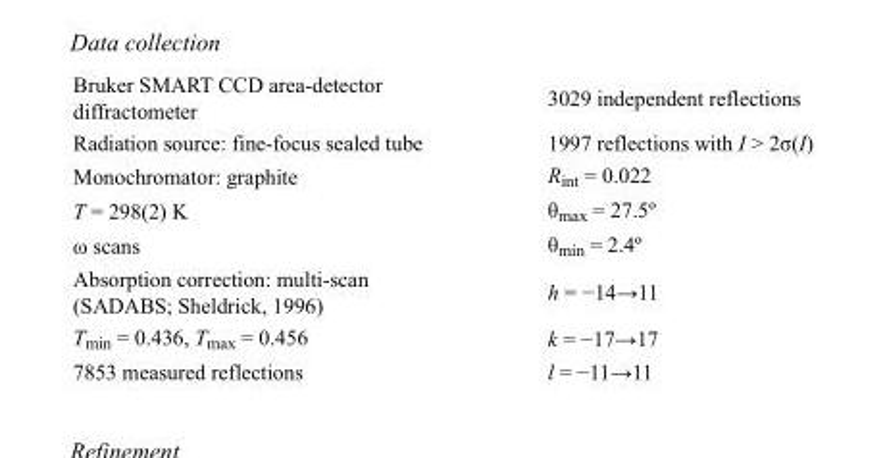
<table><tbody><tr><td>Bruker SMART CCD area-detector diffractometer</td><td>3029 independent reflections</td></tr><tr><td>Radiation source: fine-focus sealed tube</td><td>1997 reflections with I &gt; 2σ(I)</td></tr><tr><td>Monochromator: graphite</td><td>R<sub>int</sub> = 0.022</td></tr><tr><td>T = 298(2) K</td><td>θ<sub>max</sub> = 27.5º</td></tr><tr><td>ω scans</td><td>θ<sub>min</sub> = 2.4º</td></tr><tr><td>Absorption correction: multi-scan (SADABS; Sheldrick, 1996)</td><td>h = −14→11</td></tr><tr><td>T<sub>min</sub> = 0.436, T<sub>max</sub> = 0.456</td><td>k = −17→17</td></tr><tr><td>7853 measured reflections</td><td>l = −11→11</td></tr></tbody></table>